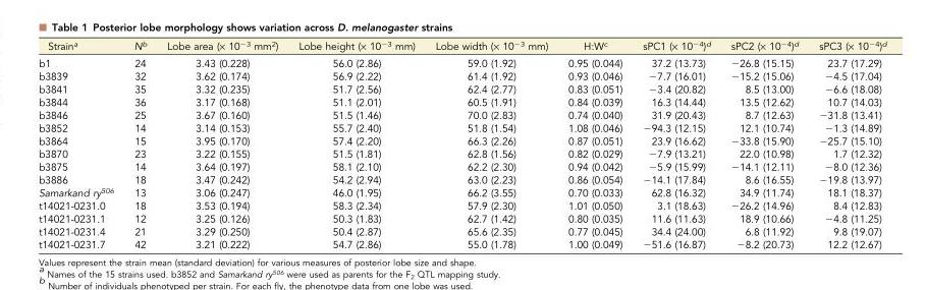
<table><thead><tr><td>Strain<sup>a</sup></td><td>N<sup>b</sup></td><td>Lobe area (× 10<sup>−3</sup> mm<sup>2</sup>)</td><td>Lobe height (× 10<sup>−3</sup> mm)</td><td>Lobe width (× 10<sup>−3</sup> mm)</td><td>H:W<sup>c</sup></td><td>sPC1 (× 10<sup>−4</sup>)<sup>d</sup></td><td>sPC2 (× 10<sup>−4</sup>)<sup>d</sup></td><td>sPC3 (× 10<sup>−4</sup>)<sup>d</sup></td></tr></thead><tbody><tr><td>b1</td><td>24</td><td>3.43 (0.228)</td><td>56.0 (2.86)</td><td>59.0 (1.92)</td><td>0.95 (0.044)</td><td>37.2 (13.73)</td><td>−26.8 (15.15)</td><td>23.7 (17.29)</td></tr><tr><td>b3839</td><td>32</td><td>3.62 (0.174)</td><td>56.9 (2.22)</td><td>61.4 (1.92)</td><td>0.93 (0.046)</td><td>−7.7 (16.01)</td><td>−15.2 (15.06)</td><td>−4.5 (17.04)</td></tr><tr><td>b3841</td><td>35</td><td>3.32 (0.235)</td><td>51.7 (2.56)</td><td>62.4 (2.77)</td><td>0.83 (0.051)</td><td>−3.4 (20.82)</td><td>8.5 (13.00)</td><td>−6.6 (18.08)</td></tr><tr><td>b3844</td><td>36</td><td>3.17 (0.168)</td><td>51.1 (2.01)</td><td>60.5 (1.91)</td><td>0.84 (0.039)</td><td>16.3 (14.44)</td><td>13.5 (12.62)</td><td>10.7 (14.03)</td></tr><tr><td>b3846</td><td>25</td><td>3.67 (0.160)</td><td>51.5 (1.46)</td><td>70.0 (2.83)</td><td>0.74 (0.040)</td><td>31.9 (20.43)</td><td>8.7 (12.63)</td><td>−31.8 (13.41)</td></tr><tr><td>b3852</td><td>14</td><td>3.14 (0.153)</td><td>55.7 (2.40)</td><td>51.8 (1.54)</td><td>1.08 (0.046)</td><td>−94.3 (12.15)</td><td>12.1 (10.74)</td><td>−1.3 (14.89)</td></tr><tr><td>b3864</td><td>15</td><td>3.95 (0.170)</td><td>57.4 (2.20)</td><td>66.3 (2.26)</td><td>0.87 (0.051)</td><td>23.9 (16.62)</td><td>−33.8 (15.90)</td><td>−25.7 (15.10)</td></tr><tr><td>b3870</td><td>23</td><td>3.22 (0.155)</td><td>51.5 (1.81)</td><td>62.8 (1.56)</td><td>0.82 (0.029)</td><td>−7.9 (13.21)</td><td>22.0 (10.98)</td><td>1.7 (12.32)</td></tr><tr><td>b3875</td><td>14</td><td>3.64 (0.197)</td><td>58.1 (2.10)</td><td>62.2 (2.30)</td><td>0.94 (0.042)</td><td>−5.9 (15.99)</td><td>−14.1 (12.11)</td><td>−8.0 (12.36)</td></tr><tr><td>b3886</td><td>18</td><td>3.47 (0.242)</td><td>54.2 (2.94)</td><td>63.0 (2.23)</td><td>0.86 (0.054)</td><td>−14.1 (17.84)</td><td>8.6 (16.55)</td><td>−19.8 (13.97)</td></tr><tr><td>Samarkand ry<sup>506</sup></td><td>13</td><td>3.06 (0.247)</td><td>46.0 (1.95)</td><td>66.2 (3.55)</td><td>0.70 (0.033)</td><td>62.8 (16.32)</td><td>34.9 (11.74)</td><td>18.1 (18.37)</td></tr><tr><td>t14021-0231.0</td><td>18</td><td>3.53 (0.194)</td><td>58.3 (2.34)</td><td>57.9 (2.30)</td><td>1.01 (0.050)</td><td>3.1 (18.63)</td><td>−26.2 (14.96)</td><td>8.4 (12.83)</td></tr><tr><td>t14021-0231.1</td><td>12</td><td>3.25 (0.126)</td><td>50.3 (1.83)</td><td>62.7 (1.42)</td><td>0.80 (0.035)</td><td>11.6 (11.63)</td><td>18.9 (10.66)</td><td>−4.8 (11.25)</td></tr><tr><td>t14021-0231.4</td><td>21</td><td>3.29 (0.250)</td><td>50.4 (2.87)</td><td>65.6 (2.35)</td><td>0.77 (0.045)</td><td>34.4 (24.00)</td><td>6.8 (11.92)</td><td>9.8 (19.07)</td></tr><tr><td>t14021-0231.7</td><td>42</td><td>3.21 (0.222)</td><td>54.7 (2.86)</td><td>55.0 (1.78)</td><td>1.00 (0.049)</td><td>−51.6 (16.87)</td><td>−8.2 (20.73)</td><td>12.2 (12.67)</td></tr></tbody></table>